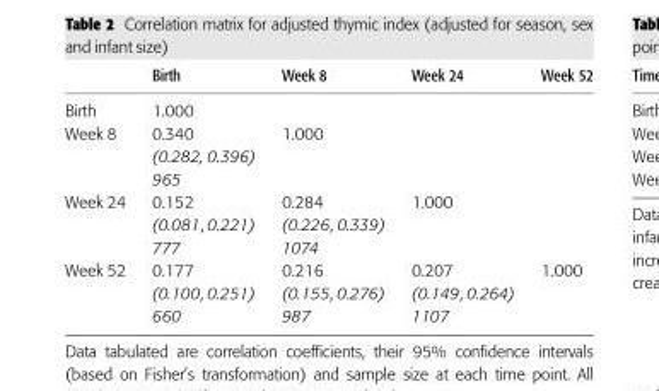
<table><thead><tr><td></td><td>Birth</td><td>Week 8</td><td>Week 24</td><td>Week 52</td></tr></thead><tbody><tr><td>Birth</td><td>1.000</td><td></td><td></td><td></td></tr><tr><td rowspan="3">Week 8</td><td>0.340</td><td>1.000</td><td></td><td></td></tr><tr><td>(0.282, 0.396)</td><td></td><td></td><td></td></tr><tr><td>965</td><td></td><td></td><td></td></tr><tr><td rowspan="3">Week 24</td><td>0.152</td><td>0.284</td><td>1.000</td><td></td></tr><tr><td>(0.081, 0.221)</td><td>(0.226, 0.339)</td><td></td><td></td></tr><tr><td>777</td><td>1074</td><td></td><td></td></tr><tr><td rowspan="3">Week 52</td><td>0.177</td><td>0.216</td><td>0.207</td><td>1.000</td></tr><tr><td>(0.100, 0.251)</td><td>(0.155, 0.276)</td><td>(0.149, 0.264)</td><td></td></tr><tr><td>660</td><td>987</td><td>1107</td><td></td></tr></tbody></table>